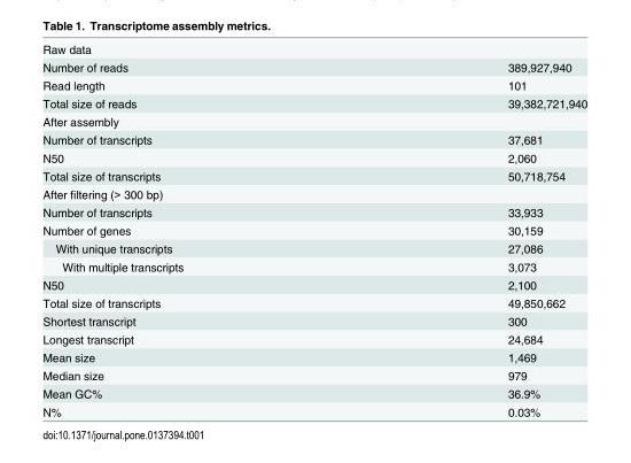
<table><tbody><tr><td colspan="2">Raw data</td></tr><tr><td>Number of reads</td><td>389,927,940</td></tr><tr><td>Read length</td><td>101</td></tr><tr><td>Total size of reads</td><td>39,382,721,940</td></tr><tr><td colspan="2">After assembly</td></tr><tr><td>Number of transcripts</td><td>37,681</td></tr><tr><td>N50</td><td>2,060</td></tr><tr><td>Total size of transcripts</td><td>50,718,754</td></tr><tr><td colspan="2">After filtering (&gt; 300 bp)</td></tr><tr><td>Number of transcripts</td><td>33,933</td></tr><tr><td>Number of genes</td><td>30,159</td></tr><tr><td>With unique transcripts</td><td>27,086</td></tr><tr><td>With multiple transcripts</td><td>3,073</td></tr><tr><td>N50</td><td>2,100</td></tr><tr><td>Total size of transcripts</td><td>49,850,662</td></tr><tr><td>Shortest transcript</td><td>300</td></tr><tr><td>Longest transcript</td><td>24,684</td></tr><tr><td>Mean size</td><td>1,469</td></tr><tr><td>Median size</td><td>979</td></tr><tr><td>Mean GC%</td><td>36.9%</td></tr><tr><td>N%</td><td>0.03%</td></tr></tbody></table>